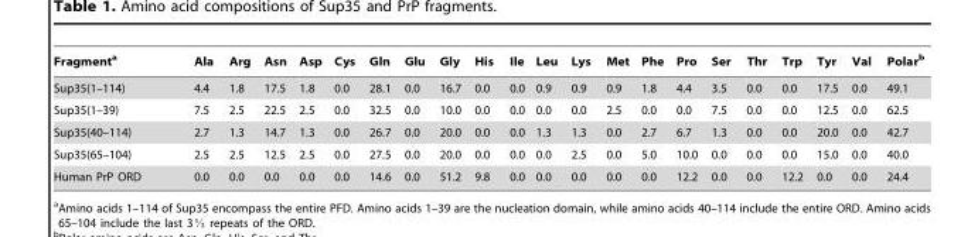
<table><thead><tr><td>Fragment<sup>a</sup></td><td>Ala</td><td>Arg</td><td>Asn</td><td>Asp</td><td>Cys</td><td>Gln</td><td>Glu</td><td>Gly</td><td>His</td><td>Ile</td><td>Leu</td><td>Lys</td><td>Met</td><td>Phe</td><td>Pro</td><td>Ser</td><td>Thr</td><td>Trp</td><td>Tyr</td><td>Val</td><td>Polar<sup>b</sup></td></tr></thead><tbody><tr><td>Sup35(1–114)</td><td>4.4</td><td>1.8</td><td>17.5</td><td>1.8</td><td>0.0</td><td>28.1</td><td>0.0</td><td>16.7</td><td>0.0</td><td>0.0</td><td>0.9</td><td>0.9</td><td>0.9</td><td>1.8</td><td>4.4</td><td>3.5</td><td>0.0</td><td>0.0</td><td>17.5</td><td>0.0</td><td>49.1</td></tr><tr><td>Sup35(1–39)</td><td>7.5</td><td>2.5</td><td>22.5</td><td>2.5</td><td>0.0</td><td>32.5</td><td>0.0</td><td>10.0</td><td>0.0</td><td>0.0</td><td>0.0</td><td>0.0</td><td>2.5</td><td>0.0</td><td>0.0</td><td>7.5</td><td>0.0</td><td>0.0</td><td>12.5</td><td>0.0</td><td>62.5</td></tr><tr><td>Sup35(40–114)</td><td>2.7</td><td>1.3</td><td>14.7</td><td>1.3</td><td>0.0</td><td>26.7</td><td>0.0</td><td>20.0</td><td>0.0</td><td>0.0</td><td>1.3</td><td>1.3</td><td>0.0</td><td>2.7</td><td>6.7</td><td>1.3</td><td>0.0</td><td>0.0</td><td>20.0</td><td>0.0</td><td>42.7</td></tr><tr><td>Sup35(65–104)</td><td>2.5</td><td>2.5</td><td>12.5</td><td>2.5</td><td>0.0</td><td>27.5</td><td>0.0</td><td>20.0</td><td>0.0</td><td>0.0</td><td>0.0</td><td>2.5</td><td>0.0</td><td>5.0</td><td>10.0</td><td>0.0</td><td>0.0</td><td>0.0</td><td>15.0</td><td>0.0</td><td>40.0</td></tr><tr><td>Human PrP ORD</td><td>0.0</td><td>0.0</td><td>0.0</td><td>0.0</td><td>0.0</td><td>14.6</td><td>0.0</td><td>51.2</td><td>9.8</td><td>0.0</td><td>0.0</td><td>0.0</td><td>0.0</td><td>0.0</td><td>12.2</td><td>0.0</td><td>0.0</td><td>12.2</td><td>0.0</td><td>0.0</td><td>24.4</td></tr></tbody></table>